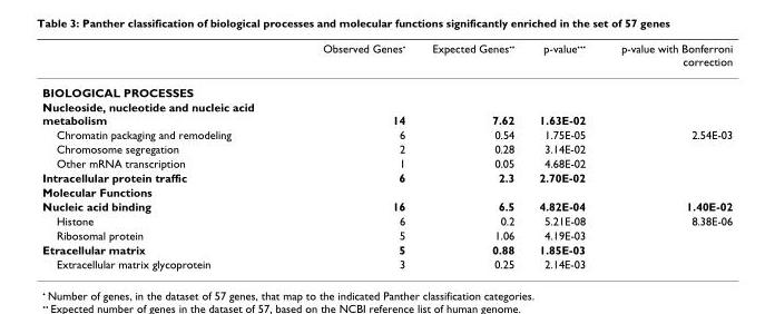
<table><thead><tr><td></td><td>Observed Genes<sup>•</sup></td><td>Expected Genes<sup>••</sup></td><td>p-value<sup>•••</sup></td><td>p-value with Bonferroni correction</td></tr></thead><tbody><tr><td colspan="5">BIOLOGICAL PROCESSES</td></tr><tr><td>Nucleoside, nucleotide and nucleic acid metabolism</td><td>14</td><td>7.62</td><td>1.63E-02</td><td></td></tr><tr><td>Chromatin packaging and remodeling</td><td>6</td><td>0.54</td><td>1.75E-05</td><td>2.54E-03</td></tr><tr><td>Chromosome segregation</td><td>2</td><td>0.28</td><td>3.14E-02</td><td></td></tr><tr><td>Other mRNA transcription</td><td>1</td><td>0.05</td><td>4.68E-02</td><td></td></tr><tr><td>Intracellular protein traffic</td><td>6</td><td>2.3</td><td>2.70E-02</td><td></td></tr><tr><td colspan="5">Molecular Functions</td></tr><tr><td>Nucleic acid binding</td><td>16</td><td>6.5</td><td>4.82E-04</td><td>1.40E-02</td></tr><tr><td>Histone</td><td>6</td><td>0.2</td><td>5.21E-08</td><td>8.38E-06</td></tr><tr><td>Ribosomal protein</td><td>5</td><td>1.06</td><td>4.19E-03</td><td></td></tr><tr><td>Etracellular matrix</td><td>5</td><td>0.88</td><td>1.85E-03</td><td></td></tr><tr><td>Extracellular matrix glycoprotein</td><td>3</td><td>0.25</td><td>2.14E-03</td><td></td></tr></tbody></table>